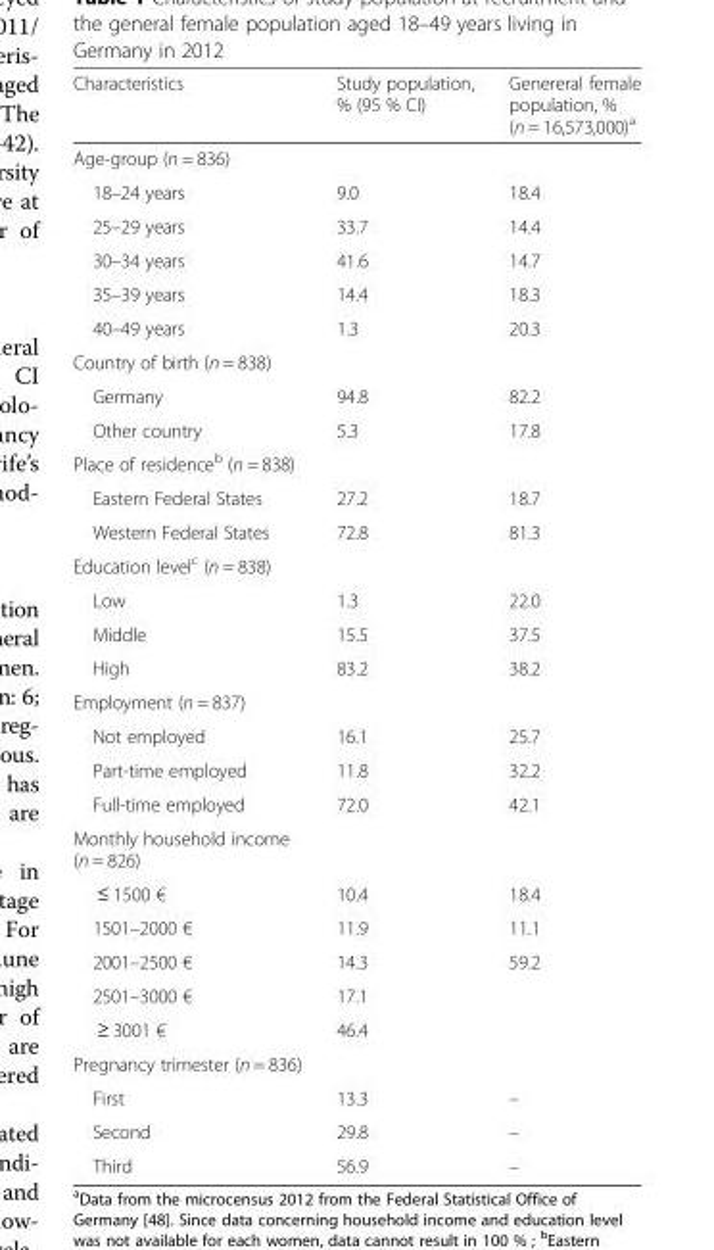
<table><thead><tr><td>Characteristics</td><td>Study population, % (95 % CI)</td><td>Genereral female population, % (n = 16,573,000)<sup>a</sup></td></tr></thead><tbody><tr><td colspan="3">Age-group (n = 836)</td></tr><tr><td>18–24 years</td><td>9.0</td><td>18.4</td></tr><tr><td>25–29 years</td><td>33.7</td><td>14.4</td></tr><tr><td>30–34 years</td><td>41.6</td><td>14.7</td></tr><tr><td>35–39 years</td><td>14.4</td><td>18.3</td></tr><tr><td>40–49 years</td><td>1.3</td><td>20.3</td></tr><tr><td colspan="3">Country of birth (n = 838)</td></tr><tr><td>Germany</td><td>94.8</td><td>82.2</td></tr><tr><td>Other country</td><td>5.3</td><td>17.8</td></tr><tr><td colspan="3">Place of residence<sup>b</sup> (n = 838)</td></tr><tr><td>Eastern Federal States</td><td>27.2</td><td>18.7</td></tr><tr><td>Western Federal States</td><td>72.8</td><td>81.3</td></tr><tr><td colspan="3">Education level<sup>c</sup> (n = 838)</td></tr><tr><td>Low</td><td>1.3</td><td>22.0</td></tr><tr><td>Middle</td><td>15.5</td><td>37.5</td></tr><tr><td>High</td><td>83.2</td><td>38.2</td></tr><tr><td colspan="3">Employment (n = 837)</td></tr><tr><td>Not employed</td><td>16.1</td><td>25.7</td></tr><tr><td>Part-time employed</td><td>11.8</td><td>32.2</td></tr><tr><td>Full-time employed</td><td>72.0</td><td>42.1</td></tr><tr><td colspan="3">Monthly household income (n = 826)</td></tr><tr><td>≤ 1500 €</td><td>10.4</td><td>18.4</td></tr><tr><td>1501–2000 €</td><td>11.9</td><td>11.1</td></tr><tr><td>2001–2500 €</td><td>14.3</td><td rowspan="3">59.2</td></tr><tr><td>2501–3000 €</td><td>17.1</td></tr><tr><td>≥ 3001 €</td><td>46.4</td></tr><tr><td colspan="3">Pregnancy trimester (n = 836)</td></tr><tr><td>First</td><td>13.3</td><td>–</td></tr><tr><td>Second</td><td>29.8</td><td>–</td></tr><tr><td>Third</td><td>56.9</td><td>–</td></tr></tbody></table>